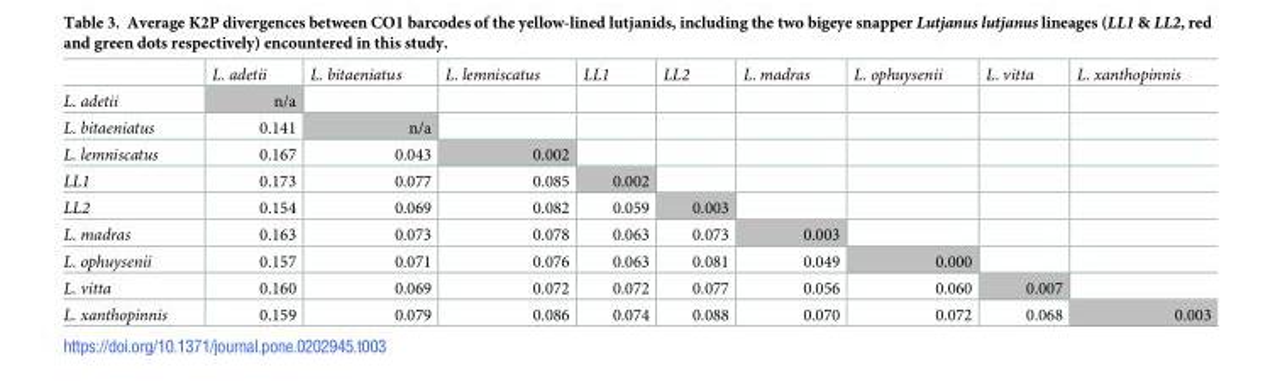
<table><thead><tr><td></td><td>L. adetii</td><td>L. bitaeniatus</td><td>L. lemniscatus</td><td>LL1</td><td>LL2</td><td>L. madras</td><td>L. ophuysenii</td><td>L. vitta</td><td>L. xanthopinnis</td></tr></thead><tbody><tr><td>L. adetii</td><td>n/a</td><td></td><td></td><td></td><td></td><td></td><td></td><td></td><td></td></tr><tr><td>L. bitaeniatus</td><td>0.141</td><td>n/a</td><td></td><td></td><td></td><td></td><td></td><td></td><td></td></tr><tr><td>L. lemniscatus</td><td>0.167</td><td>0.043</td><td>0.002</td><td></td><td></td><td></td><td></td><td></td><td></td></tr><tr><td>LL1</td><td>0.173</td><td>0.077</td><td>0.085</td><td>0.002</td><td></td><td></td><td></td><td></td><td></td></tr><tr><td>LL2</td><td>0.154</td><td>0.069</td><td>0.082</td><td>0.059</td><td>0.003</td><td></td><td></td><td></td><td></td></tr><tr><td>L. madras</td><td>0.163</td><td>0.073</td><td>0.078</td><td>0.063</td><td>0.073</td><td>0.003</td><td></td><td></td><td></td></tr><tr><td>L. ophuysenii</td><td>0.157</td><td>0.071</td><td>0.076</td><td>0.063</td><td>0.081</td><td>0.049</td><td>0.000</td><td></td><td></td></tr><tr><td>L. vitta</td><td>0.160</td><td>0.069</td><td>0.072</td><td>0.072</td><td>0.077</td><td>0.056</td><td>0.060</td><td>0.007</td><td></td></tr><tr><td>L. xanthopinnis</td><td>0.159</td><td>0.079</td><td>0.086</td><td>0.074</td><td>0.088</td><td>0.070</td><td>0.072</td><td>0.068</td><td>0.003</td></tr></tbody></table>